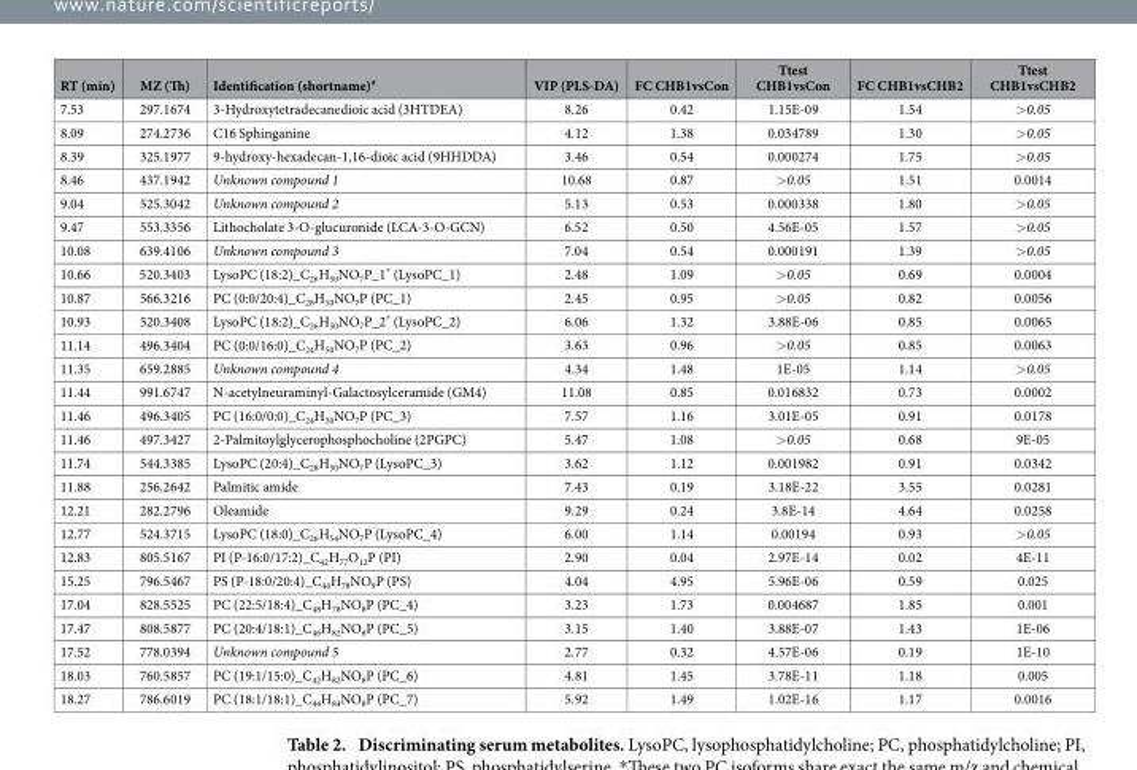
<table><thead><tr><td>RT (min)</td><td>MZ (Th)</td><td>Identification (shortname)<sup>#</sup></td><td>VIP (PLS-DA)</td><td>FC CHB1vsCon</td><td>Ttest CHB1vsCon</td><td>FC CHB1vsCHB2</td><td>Ttest CHB1vsCHB2</td></tr></thead><tbody><tr><td>7.53</td><td>297.1674</td><td>3-Hydroxytetradecanedioic acid (3HTDEA)</td><td>8.26</td><td>0.42</td><td>1.15E-09</td><td>1.54</td><td>&gt; 0.05</td></tr><tr><td>8.09</td><td>274.2736</td><td>C16 Sphinganine</td><td>4.12</td><td>1.38</td><td>0.034789</td><td>1.30</td><td>&gt; 0.05</td></tr><tr><td>8.39</td><td>325.1977</td><td>9-hydroxy-hexadecan-1,16-dioic acid (9HHDDA)</td><td>3.46</td><td>0.54</td><td>0.000274</td><td>1.75</td><td>&gt; 0.05</td></tr><tr><td>8.46</td><td>437.1942</td><td>Unknown compound 1</td><td>10.68</td><td>0.87</td><td>&gt; 0.05</td><td>1.51</td><td>0.0014</td></tr><tr><td>9.04</td><td>525.3042</td><td>Unknown compound 2</td><td>5.13</td><td>0.53</td><td>0.000338</td><td>1.80</td><td>&gt; 0.05</td></tr><tr><td>9.47</td><td>553.3356</td><td>Lithocholate 3-O-glucuronide (LCA-3-O-GCN)</td><td>6.52</td><td>0.50</td><td>4.56E-05</td><td>1.57</td><td>&gt; 0.05</td></tr><tr><td>10.08</td><td>639.4106</td><td>Unknown compound 3</td><td>7.04</td><td>0.54</td><td>0.000191</td><td>1.39</td><td>&gt; 0.05</td></tr><tr><td>10.66</td><td>520.3403</td><td>LysoPC (18:2)_C<sub>26</sub>H<sub>50</sub>NO<sub>7</sub>P_1* (LysoPC_1)</td><td>2.48</td><td>1.09</td><td>&gt; 0.05</td><td>0.69</td><td>0.0004</td></tr><tr><td>10.87</td><td>566.3216</td><td>PC (0:0/20:4)_C<sub>28</sub>H<sub>50</sub>NO<sub>7</sub>P (PC_1)</td><td>2.45</td><td>0.95</td><td>&gt; 0.05</td><td>0.82</td><td>0.0056</td></tr><tr><td>10.93</td><td>520.3408</td><td>LysoPC (18:2)_C<sub>26</sub>H<sub>50</sub>NO<sub>7</sub>P_2* (LysoPC_2)</td><td>6.06</td><td>1.32</td><td>3.88E-06</td><td>0.85</td><td>0.0065</td></tr><tr><td>11.14</td><td>496.3404</td><td>PC (0:0/16:0)_C<sub>24</sub>H<sub>50</sub>NO<sub>7</sub>P (PC_2)</td><td>3.63</td><td>0.96</td><td>&gt; 0.05</td><td>0.85</td><td>0.0063</td></tr><tr><td>11.35</td><td>659.2885</td><td>Unknown compound 4</td><td>4.34</td><td>1.48</td><td>1E-05</td><td>1.14</td><td>&gt; 0.05</td></tr><tr><td>11.44</td><td>991.6747</td><td>N-acetylneuraminyl-Galactosylceramide (GM4)</td><td>11.08</td><td>0.85</td><td>0.016832</td><td>0.73</td><td>0.0002</td></tr><tr><td>11.46</td><td>496.3405</td><td>PC (16:0/0:0)_C<sub>24</sub>H<sub>50</sub>NO<sub>7</sub>P (PC_3)</td><td>7.57</td><td>1.16</td><td>3.01E-05</td><td>0.91</td><td>0.0178</td></tr><tr><td>11.46</td><td>497.3427</td><td>2-Palmitoylglycerophosphocholine (2PGPC)</td><td>5.47</td><td>1.08</td><td>&gt; 0.05</td><td>0.68</td><td>9E-05</td></tr><tr><td>11.74</td><td>544.3385</td><td>LysoPC (20:4)_C<sub>28</sub>H<sub>50</sub>NO<sub>7</sub>P (LysoPC_3)</td><td>3.62</td><td>1.12</td><td>0.001982</td><td>0.91</td><td>0.0342</td></tr><tr><td>11.88</td><td>256.2642</td><td>Palmitic amide</td><td>7.43</td><td>0.19</td><td>3.18E-22</td><td>3.55</td><td>0.0281</td></tr><tr><td>12.21</td><td>282.2796</td><td>Oleamide</td><td>9.29</td><td>0.24</td><td>3.8E-14</td><td>4.64</td><td>0.0258</td></tr><tr><td>12.77</td><td>524.3715</td><td>LysoPC (18:0)_C<sub>26</sub>H<sub>54</sub>NO<sub>7</sub>P (LysoPC_4)</td><td>6.00</td><td>1.14</td><td>0.00194</td><td>0.93</td><td>&gt; 0.05</td></tr><tr><td>12.83</td><td>805.5167</td><td>PI (P-16:0/17:2)_C<sub>42</sub>H<sub>77</sub>O<sub>12</sub>P (PI)</td><td>2.90</td><td>0.04</td><td>2.97E-14</td><td>0.02</td><td>4E-11</td></tr><tr><td>15.25</td><td>796.5467</td><td>PS (P-18:0/20:4)_C<sub>44</sub>H<sub>78</sub>NO<sub>9</sub>P (PS)</td><td>4.04</td><td>4.95</td><td>5.96E-06</td><td>0.59</td><td>0.025</td></tr><tr><td>17.04</td><td>828.5525</td><td>PC (22:5/18:4)_C<sub>48</sub>H<sub>78</sub>NO<sub>8</sub>P (PC_4)</td><td>3.23</td><td>1.73</td><td>0.004687</td><td>1.85</td><td>0.001</td></tr><tr><td>17.47</td><td>808.5877</td><td>PC (20:4/18:1)_C<sub>46</sub>H<sub>82</sub>NO<sub>8</sub>P (PC_5)</td><td>3.15</td><td>1.40</td><td>3.88E-07</td><td>1.43</td><td>1E-06</td></tr><tr><td>17.52</td><td>778.0394</td><td>Unknown compound 5</td><td>2.77</td><td>0.32</td><td>4.57E-06</td><td>0.19</td><td>1E-10</td></tr><tr><td>18.03</td><td>760.5857</td><td>PC (19:1/15:0)_C<sub>42</sub>H<sub>82</sub>NO<sub>8</sub>P (PC_6)</td><td>4.81</td><td>1.45</td><td>3.78E-11</td><td>1.18</td><td>0.005</td></tr><tr><td>18.27</td><td>786.6019</td><td>PC (18:1/18:1)_C<sub>44</sub>H<sub>84</sub>NO<sub>8</sub>P (PC_7)</td><td>5.92</td><td>1.49</td><td>1.02E-16</td><td>1.17</td><td>0.0016</td></tr></tbody></table>